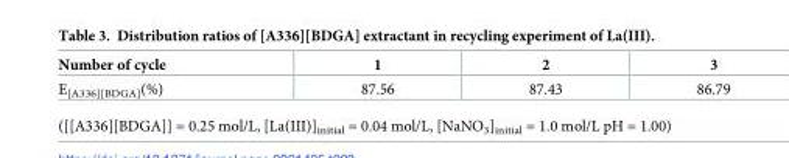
<table><thead><tr><td>Number of cycle</td><td>1</td><td>2</td><td>3</td></tr></thead><tbody><tr><td>E<sub>[A336][BDGA]</sub>(%)</td><td>87.56</td><td>87.43</td><td>86.79</td></tr></tbody></table>